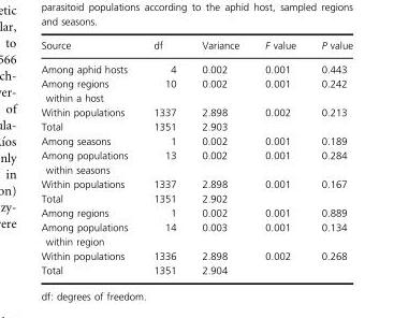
<table><thead><tr><td>Source</td><td>df</td><td>Variance</td><td>F value</td><td>P value</td></tr></thead><tbody><tr><td>Among aphid hosts</td><td>4</td><td>0.002</td><td>0.001</td><td>0.443</td></tr><tr><td>Among regions within a host</td><td>10</td><td>0.002</td><td>0.001</td><td>0.242</td></tr><tr><td>Within populations</td><td>1337</td><td>2.898</td><td>0.002</td><td>0.213</td></tr><tr><td>Total</td><td>1351</td><td>2.903</td><td></td><td></td></tr><tr><td>Among seasons</td><td>1</td><td>0.002</td><td>0.001</td><td>0.189</td></tr><tr><td>Among populations within seasons</td><td>13</td><td>0.002</td><td>0.001</td><td>0.284</td></tr><tr><td>Within populations</td><td>1337</td><td>2.898</td><td>0.001</td><td>0.167</td></tr><tr><td>Total</td><td>1351</td><td>2.902</td><td></td><td></td></tr><tr><td>Among regions</td><td>1</td><td>0.002</td><td>0.001</td><td>0.889</td></tr><tr><td>Among populations within region</td><td>14</td><td>0.003</td><td>0.001</td><td>0.134</td></tr><tr><td>Within populations</td><td>1336</td><td>2.898</td><td>0.002</td><td>0.268</td></tr><tr><td>Total</td><td>1351</td><td>2.904</td><td></td><td></td></tr></tbody></table>